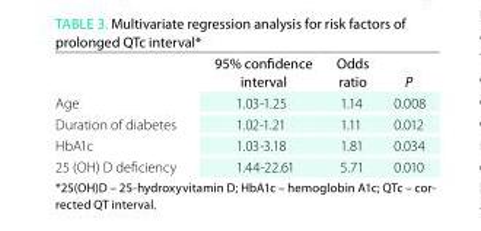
<table><thead><tr><td></td><td>95% confidence interval</td><td>Odds ratio</td><td>P</td></tr></thead><tbody><tr><td>Age</td><td>1.03-1.25</td><td>1.14</td><td>0.008</td></tr><tr><td>Duration of diabetes</td><td>1.02-1.21</td><td>1.11</td><td>0.012</td></tr><tr><td>HbA1c</td><td>1.03-3.18</td><td>1.81</td><td>0.034</td></tr><tr><td>25 (OH) D deficiency</td><td>1.44-22.61</td><td>5.71</td><td>0.010</td></tr></tbody></table>